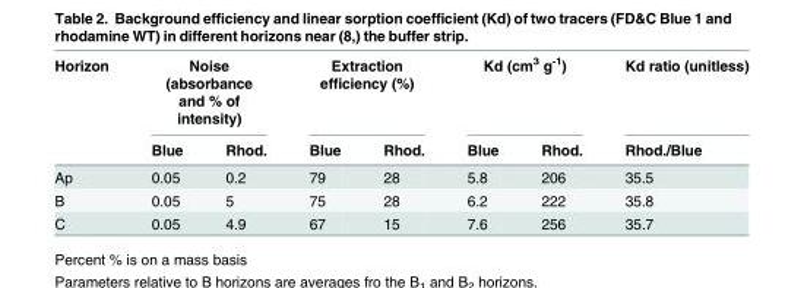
<table><thead><tr><td rowspan="2">Horizon</td><td colspan="2">Noise (absorbance and % of intensity)</td><td colspan="2">Extraction efficiency (%)</td><td colspan="2">Kd (cm<sup>3</sup> g<sup>-1</sup>)</td><td rowspan="2">Kd ratio (unitless) Rhod./Blue</td></tr><tr><td>Blue</td><td>Rhod.</td><td>Blue</td><td>Rhod.</td><td>Blue</td><td>Rhod.</td></tr></thead><tbody><tr><td>Ap</td><td>0.05</td><td>0.2</td><td>79</td><td>28</td><td>5.8</td><td>206</td><td>35.5</td></tr><tr><td>B</td><td>0.05</td><td>5</td><td>75</td><td>28</td><td>6.2</td><td>222</td><td>35.8</td></tr><tr><td>C</td><td>0.05</td><td>4.9</td><td>67</td><td>15</td><td>7.6</td><td>256</td><td>35.7</td></tr></tbody></table>